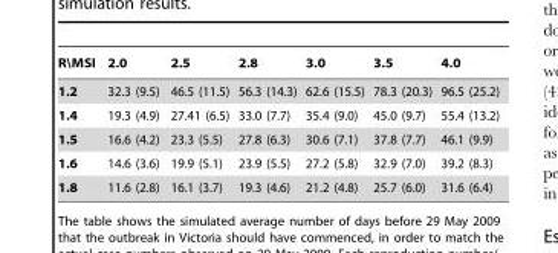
<table><thead><tr><td>R\MSI</td><td>2.0</td><td>2.5</td><td>2.8</td><td>3.0</td><td>3.5</td><td>4.0</td></tr></thead><tbody><tr><td>1.2</td><td>32.3 (9.5)</td><td>46.5 (11.5)</td><td>56.3 (14.3)</td><td>62.6 (15.5)</td><td>78.3 (20.3)</td><td>96.5 (25.2)</td></tr><tr><td>1.4</td><td>19.3 (4.9)</td><td>27.41 (6.5)</td><td>33.0 (7.7)</td><td>35.4 (9.0)</td><td>45.0 (9.7)</td><td>55.4 (13.2)</td></tr><tr><td>1.5</td><td>16.6 (4.2)</td><td>23.3 (5.5)</td><td>27.8 (6.3)</td><td>30.6 (7.1)</td><td>37.8 (7.7)</td><td>46.1 (9.9)</td></tr><tr><td>1.6</td><td>14.6 (3.6)</td><td>19.9 (5.1)</td><td>23.9 (5.5)</td><td>27.2 (5.8)</td><td>32.9 (7.0)</td><td>39.2 (8.3)</td></tr><tr><td>1.8</td><td>11.6 (2.8)</td><td>16.1 (3.7)</td><td>19.3 (4.6)</td><td>21.2 (4.8)</td><td>25.7 (6.0)</td><td>31.6 (6.4)</td></tr></tbody></table>